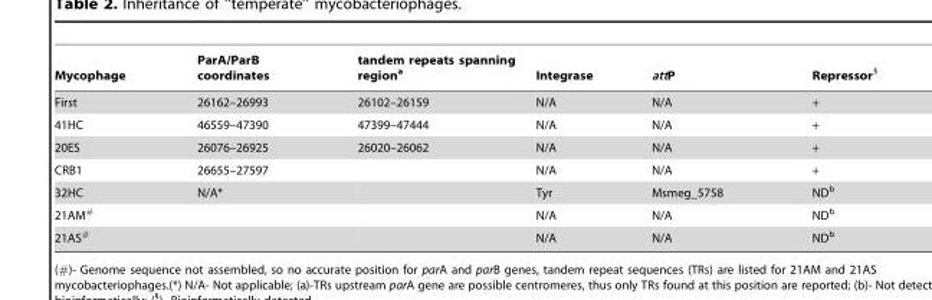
<table><thead><tr><td>Mycophage</td><td>ParA/ParB coordinates</td><td>tandem repeats spanning region<sup>a</sup></td><td>Integrase</td><td>attP</td><td>Repressor<sup>§</sup></td></tr></thead><tbody><tr><td>First</td><td>26162–26993</td><td>26102–26159</td><td>N/A</td><td>N/A</td><td>+</td></tr><tr><td>41HC</td><td>46559–47390</td><td>47399–47444</td><td>N/A</td><td>N/A</td><td>+</td></tr><tr><td>20ES</td><td>26076–26925</td><td>26020–26062</td><td>N/A</td><td>N/A</td><td>+</td></tr><tr><td>CRB1</td><td>26655–27597</td><td></td><td>N/A</td><td>N/A</td><td>+</td></tr><tr><td>32HC</td><td>N/A*</td><td></td><td>Tyr</td><td>Msmeg_5758</td><td>ND<sup>b</sup></td></tr><tr><td>21AM<sup>#</sup></td><td></td><td></td><td>N/A</td><td>N/A</td><td>ND<sup>b</sup></td></tr><tr><td>21AS<sup>#</sup></td><td></td><td></td><td>N/A</td><td>N/A</td><td>ND<sup>b</sup></td></tr></tbody></table>